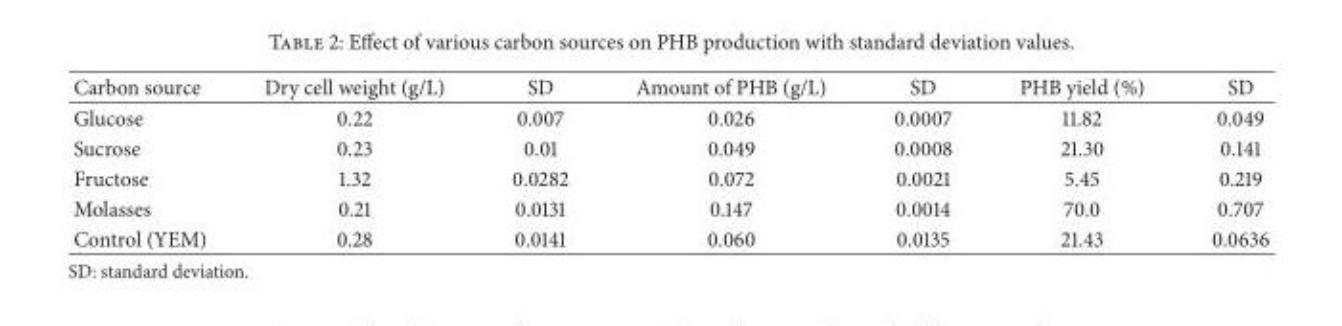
<table><thead><tr><td>Carbon source</td><td>Dry cell weight (g/L)</td><td>SD</td><td>Amount of PHB (g/L)</td><td>SD</td><td>PHB yield (%)</td><td>SD</td></tr></thead><tbody><tr><td>Glucose</td><td>0.22</td><td>0.007</td><td>0.026</td><td>0.0007</td><td>11.82</td><td>0.049</td></tr><tr><td>Sucrose</td><td>0.23</td><td>0.01</td><td>0.049</td><td>0.0008</td><td>21.30</td><td>0.141</td></tr><tr><td>Fructose</td><td>1.32</td><td>0.0282</td><td>0.072</td><td>0.0021</td><td>5.45</td><td>0.219</td></tr><tr><td>Molasses</td><td>0.21</td><td>0.0131</td><td>0.147</td><td>0.0014</td><td>70.0</td><td>0.707</td></tr><tr><td>Control (YEM)</td><td>0.28</td><td>0.0141</td><td>0.060</td><td>0.0135</td><td>21.43</td><td>0.0636</td></tr></tbody></table>